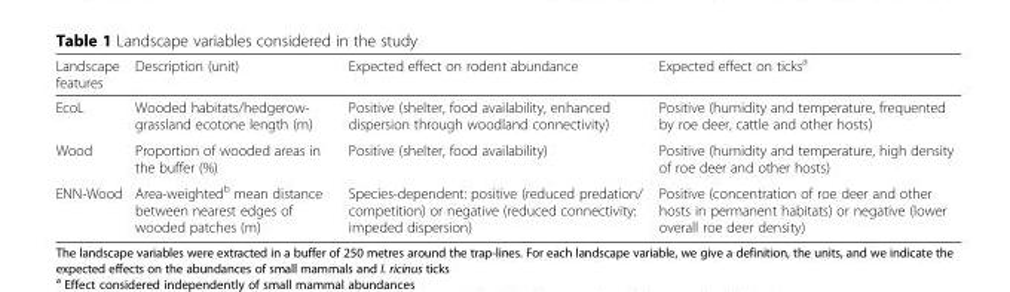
<table><thead><tr><td>Landscape features</td><td>Description (unit)</td><td>Expected effect on rodent abundance</td><td>Expected effect on ticks<sup>a</sup></td></tr></thead><tbody><tr><td>EcoL</td><td>Wooded habitats/hedgerow- grassland ecotone length (m)</td><td>Positive (shelter, food availability, enhanced dispersion through woodland connectivity)</td><td>Positive (humidity and temperature, frequented by roe deer, cattle and other hosts)</td></tr><tr><td>Wood</td><td>Proportion of wooded areas in the buffer (%)</td><td>Positive (shelter, food availability)</td><td>Positive (humidity and temperature, high density of roe deer and other hosts)</td></tr><tr><td>ENN-Wood</td><td>Area-weighted<sup>b</sup> mean distance between nearest edges of wooded patches (m)</td><td>Species-dependent: positive (reduced predation/ competition) or negative (reduced connectivity: impeded dispersion)</td><td>Positive (concentration of roe deer and other hosts in permanent habitats) or negative (lower overall roe deer density)</td></tr></tbody></table>